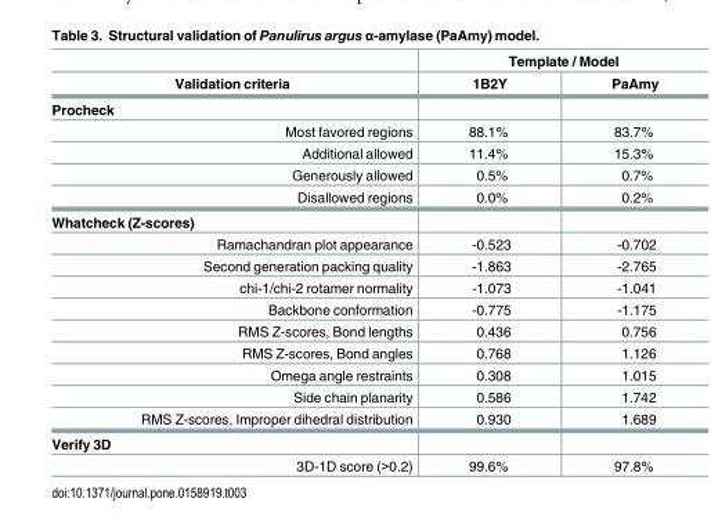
<table><thead><tr><td rowspan="2">Validation criteria</td><td colspan="2">Template / Model</td></tr><tr><td>1B2Y</td><td>PaAmy</td></tr></thead><tbody><tr><td colspan="3">Procheck</td></tr><tr><td>Most favored regions</td><td>88.1%</td><td>83.7%</td></tr><tr><td>Additional allowed</td><td>11.4%</td><td>15.3%</td></tr><tr><td>Generously allowed</td><td>0.5%</td><td>0.7%</td></tr><tr><td>Disallowed regions</td><td>0.0%</td><td>0.2%</td></tr><tr><td colspan="3">Whatcheck (Z-scores)</td></tr><tr><td>Ramachandran plot appearance</td><td>-0.523</td><td>-0.702</td></tr><tr><td>Second generation packing quality</td><td>-1.863</td><td>-2.765</td></tr><tr><td>chi-1/chi-2 rotamer normality</td><td>-1.073</td><td>-1.041</td></tr><tr><td>Backbone conformation</td><td>-0.775</td><td>-1.175</td></tr><tr><td>RMS Z-scores, Bond lengths</td><td>0.436</td><td>0.756</td></tr><tr><td>RMS Z-scores, Bond angles</td><td>0.768</td><td>1.126</td></tr><tr><td>Omega angle restraints</td><td>0.308</td><td>1.015</td></tr><tr><td>Side chain planarity</td><td>0.586</td><td>1.742</td></tr><tr><td>RMS Z-scores, Improper dihedral distribution</td><td>0.930</td><td>1.689</td></tr><tr><td colspan="3">Verify 3D</td></tr><tr><td>3D-1D score (&gt;0.2)</td><td>99.6%</td><td>97.8%</td></tr></tbody></table>